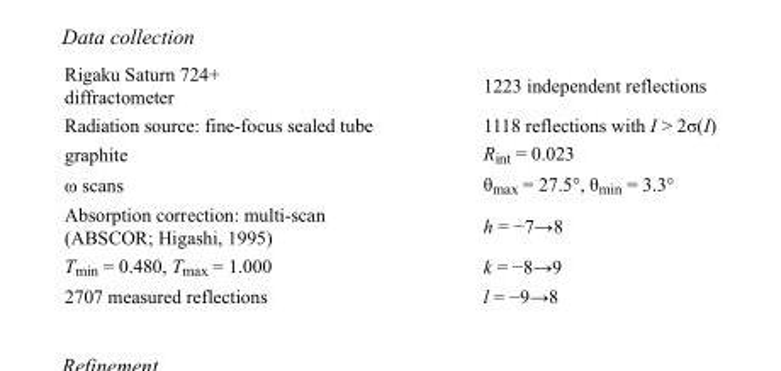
<table><tbody><tr><td>Rigaku Saturn 724+ diffractometer</td><td>1223 independent reflections</td></tr><tr><td>Radiation source: fine-focus sealed tube</td><td>1118 reflections with I &gt; 2σ(I)</td></tr><tr><td>graphite</td><td>R<sub>int</sub> = 0.023</td></tr><tr><td>ω scans</td><td>θ<sub>max</sub> = 27.5°, θ<sub>min</sub> = 3.3°</td></tr><tr><td>Absorption correction: multi-scan (ABSCOR; Higashi, 1995)</td><td>h = −7→8</td></tr><tr><td>T<sub>min</sub> = 0.480, T<sub>max</sub> = 1.000</td><td>k = −8→9</td></tr><tr><td>2707 measured reflections</td><td>l = −9→8</td></tr></tbody></table>